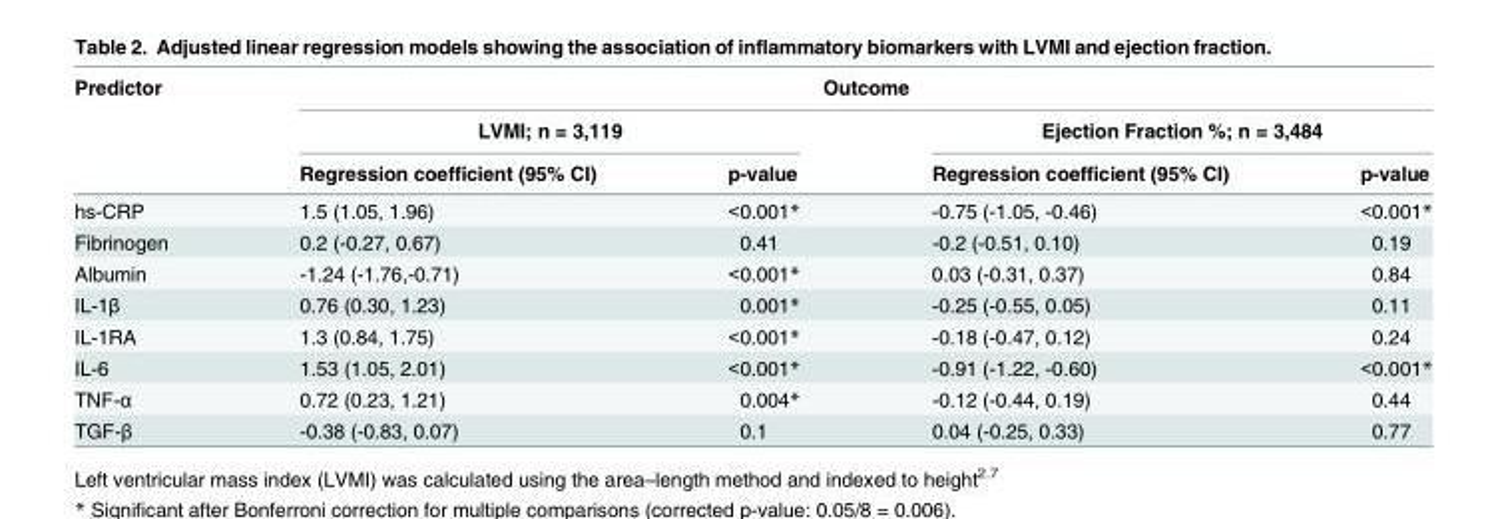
<table><thead><tr><td rowspan="3">Predictor</td><td colspan="4">Outcome</td></tr><tr><td colspan="2">LVMI; n = 3,119</td><td colspan="2">Ejection Fraction %; n = 3,484</td></tr><tr><td>Regression coefficient (95% CI)</td><td>p-value</td><td>Regression coefficient (95% CI)</td><td>p-value</td></tr></thead><tbody><tr><td>hs-CRP</td><td>1.5 (1.05, 1.96)</td><td>&lt;0.001*</td><td>-0.75 (-1.05, -0.46)</td><td>&lt;0.001*</td></tr><tr><td>Fibrinogen</td><td>0.2 (-0.27, 0.67)</td><td>0.41</td><td>-0.2 (-0.51, 0.10)</td><td>0.19</td></tr><tr><td>Albumin</td><td>-1.24 (-1.76,-0.71)</td><td>&lt;0.001*</td><td>0.03 (-0.31, 0.37)</td><td>0.84</td></tr><tr><td>IL-1β</td><td>0.76 (0.30, 1.23)</td><td>0.001*</td><td>-0.25 (-0.55, 0.05)</td><td>0.11</td></tr><tr><td>IL-1RA</td><td>1.3 (0.84, 1.75)</td><td>&lt;0.001*</td><td>-0.18 (-0.47, 0.12)</td><td>0.24</td></tr><tr><td>IL-6</td><td>1.53 (1.05, 2.01)</td><td>&lt;0.001*</td><td>-0.91 (-1.22, -0.60)</td><td>&lt;0.001*</td></tr><tr><td>TNF-α</td><td>0.72 (0.23, 1.21)</td><td>0.004*</td><td>-0.12 (-0.44, 0.19)</td><td>0.44</td></tr><tr><td>TGF-β</td><td>-0.38 (-0.83, 0.07)</td><td>0.1</td><td>0.04 (-0.25, 0.33)</td><td>0.77</td></tr></tbody></table>